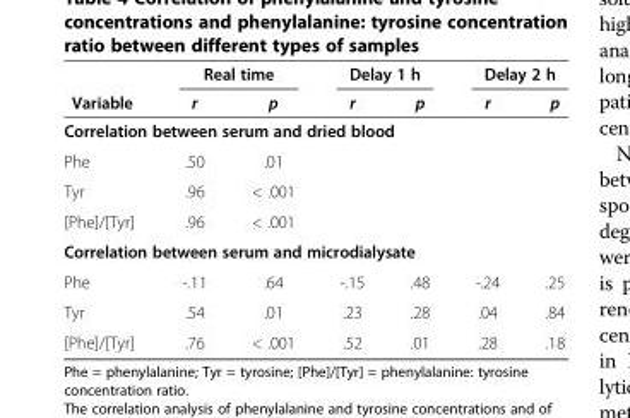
<table><thead><tr><td rowspan="2">Variable</td><td colspan="2">Real time</td><td colspan="2">Delay 1 h</td><td colspan="2">Delay 2 h</td></tr><tr><td>r</td><td>p</td><td>r</td><td>p</td><td>r</td><td>p</td></tr></thead><tbody><tr><td colspan="7">Correlation between serum and dried blood</td></tr><tr><td>Phe</td><td>.50</td><td>.01</td><td></td><td></td><td></td><td></td></tr><tr><td>Tyr</td><td>.96</td><td>&lt; .001</td><td></td><td></td><td></td><td></td></tr><tr><td>[Phe]/[Tyr]</td><td>.96</td><td>&lt; .001</td><td></td><td></td><td></td><td></td></tr><tr><td colspan="7">Correlation between serum and microdialysate</td></tr><tr><td>Phe</td><td>-.11</td><td>.64</td><td>-.15</td><td>.48</td><td>-.24</td><td>.25</td></tr><tr><td>Tyr</td><td>.54</td><td>.01</td><td>.23</td><td>.28</td><td>.04</td><td>.84</td></tr><tr><td>[Phe]/[Tyr]</td><td>.76</td><td>&lt; .001</td><td>.52</td><td>.01</td><td>.28</td><td>.18</td></tr></tbody></table>